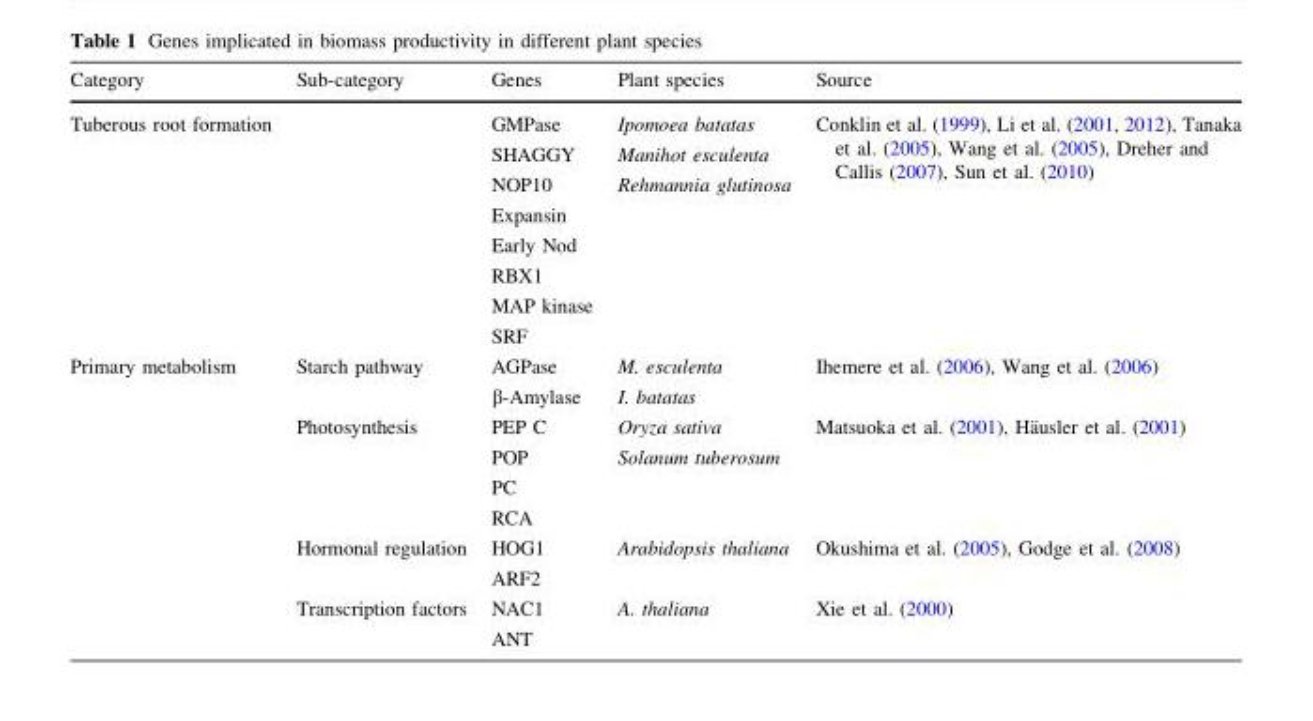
<table><thead><tr><td>Category</td><td>Sub-category</td><td>Genes</td><td>Plant species</td><td>Source</td></tr></thead><tbody><tr><td>Tuberous root formation</td><td></td><td>GMPase SHAGGY NOP10 Expansin Early Nod RBX1 MAP kinase SRF</td><td>Ipomoea batatas Manihot esculenta Rehmannia glutinosa</td><td>Conklin et al. (1999), Li et al. (2001, 2012), Tanaka et al. (2005), Wang et al. (2005), Dreher and Callis (2007), Sun et al. (2010)</td></tr><tr><td rowspan="4">Primary metabolism</td><td>Starch pathway</td><td>AGPase β-Amylase</td><td>M. esculenta I. batatas</td><td>Ihemere et al. (2006), Wang et al. (2006)</td></tr><tr><td>Photosynthesis</td><td>PEP C POP PC RCA</td><td>Oryza sativa Solanum tuberosum</td><td>Matsuoka et al. (2001), Ha¨usler et al. (2001)</td></tr><tr><td>Hormonal regulation</td><td>HOG1 ARF2</td><td>Arabidopsis thaliana</td><td>Okushima et al. (2005), Godge et al. (2008)</td></tr><tr><td>Transcription factors</td><td>NAC1 ANT</td><td>A. thaliana</td><td>Xie et al. (2000)</td></tr></tbody></table>